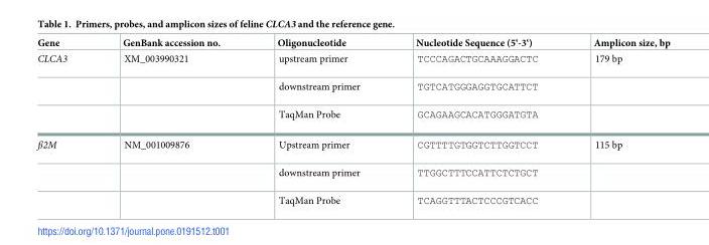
<table><thead><tr><td>Gene</td><td>GenBank accession no.</td><td>Oligonucleotide</td><td>Nucleotide Sequence (5‘-3‘)</td><td>Amplicon size, bp</td></tr></thead><tbody><tr><td rowspan="3">CLCA3</td><td>XM_003990321</td><td>upstream primer</td><td>TCCCAGACTGCAAAGGACTC</td><td>179 bp</td></tr><tr><td></td><td>downstream primer</td><td>TGTCATGGGAGGTGCATTCT</td><td></td></tr><tr><td></td><td>TaqMan Probe</td><td>GCAGAAGCACATGGGATGTA</td><td></td></tr><tr><td rowspan="3">ß2M</td><td>NM_001009876</td><td>Upstream primer</td><td>CGTTTTGTGGTCTTGGTCCT</td><td>115 bp</td></tr><tr><td></td><td>downstream primer</td><td>TTGGCTTTCCATTCTCTGCT</td><td></td></tr><tr><td></td><td>TaqMan Probe</td><td>TCAGGTTTACTCCCGTCACC</td><td></td></tr></tbody></table>